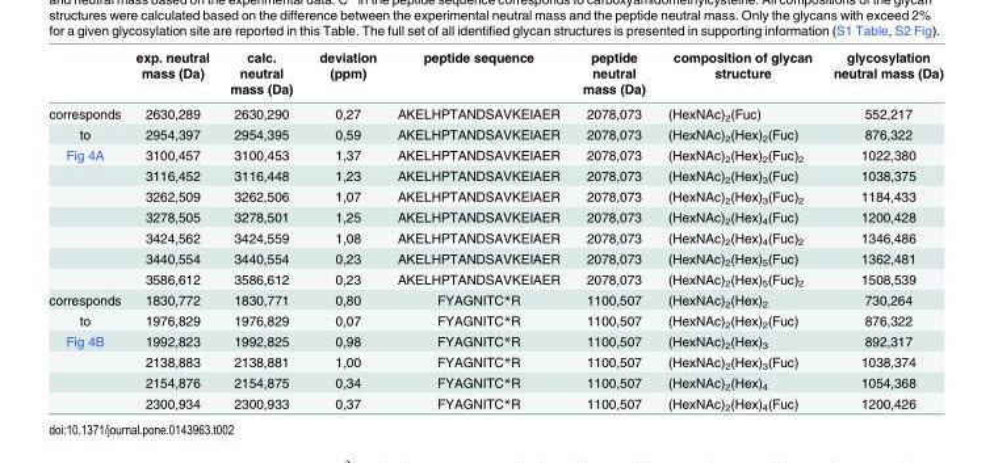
<table><thead><tr><td></td><td>exp. neutral mass (Da)</td><td>calc. neutral mass (Da)</td><td>deviation (ppm)</td><td>peptide sequence</td><td>peptide neutral mass (Da)</td><td>composition of glycan structure</td><td>glycosylation neutral mass (Da)</td></tr></thead><tbody><tr><td>corresponds</td><td>2630,289</td><td>2630,290</td><td>0,27</td><td>AKELHPTANDSAVKEIAER</td><td>2078,073</td><td>(HexNAc)<sub>2</sub>(Fuc)</td><td>552,217</td></tr><tr><td>to</td><td>2954,397</td><td>2954,395</td><td>0,59</td><td>AKELHPTANDSAVKEIAER</td><td>2078,073</td><td>(HexNAc)<sub>2</sub>(Hex)<sub>2</sub>(Fuc)</td><td>876,322</td></tr><tr><td rowspan="7">Fig 4A</td><td>3100,457</td><td>3100,453</td><td>1,37</td><td>AKELHPTANDSAVKEIAER</td><td>2078,073</td><td>(HexNAc)<sub>2</sub>(Hex)<sub>2</sub>(Fuc)<sub>2</sub></td><td>1022,380</td></tr><tr><td>3116,452</td><td>3116,448</td><td>1,23</td><td>AKELHPTANDSAVKEIAER</td><td>2078,073</td><td>(HexNAc)<sub>2</sub>(Hex)<sub>3</sub>(Fuc)</td><td>1038,375</td></tr><tr><td>3262,509</td><td>3262,506</td><td>1,07</td><td>AKELHPTANDSAVKEIAER</td><td>2078,073</td><td>(HexNAc)<sub>2</sub>(Hex)<sub>3</sub>(Fuc)<sub>2</sub></td><td>1184,433</td></tr><tr><td>3278,505</td><td>3278,501</td><td>1,25</td><td>AKELHPTANDSAVKEIAER</td><td>2078,073</td><td>(HexNAc)<sub>2</sub>(Hex)<sub>4</sub>(Fuc)</td><td>1200,428</td></tr><tr><td>3424,562</td><td>3424,559</td><td>1,08</td><td>AKELHPTANDSAVKEIAER</td><td>2078,073</td><td>(HexNAc)<sub>2</sub>(Hex)<sub>4</sub>(Fuc)<sub>2</sub></td><td>1346,486</td></tr><tr><td>3440,554</td><td>3440,554</td><td>0,23</td><td>AKELHPTANDSAVKEIAER</td><td>2078,073</td><td>(HexNAc)<sub>2</sub>(Hex)<sub>5</sub>(Fuc)</td><td>1362,481</td></tr><tr><td>3586,612</td><td>3586,612</td><td>0,23</td><td>AKELHPTANDSAVKEIAER</td><td>2078,073</td><td>(HexNAc)<sub>2</sub>(Hex)<sub>5</sub>(Fuc)<sub>2</sub></td><td>1508,539</td></tr><tr><td>corresponds</td><td>1830,772</td><td>1830,771</td><td>0,80</td><td>FYAGNITC*R</td><td>1100,507</td><td>(HexNAc)<sub>2</sub>(Hex)<sub>2</sub></td><td>730,264</td></tr><tr><td>to</td><td>1976,829</td><td>1976,829</td><td>0,07</td><td>FYAGNITC*R</td><td>1100,507</td><td>(HexNAc)<sub>2</sub>(Hex)<sub>2</sub>(Fuc)</td><td>876,322</td></tr><tr><td rowspan="4">Fig 4B</td><td>1992,823</td><td>1992,825</td><td>0,98</td><td>FYAGNITC*R</td><td>1100,507</td><td>(HexNAc)<sub>2</sub>(Hex)<sub>3</sub></td><td>892,317</td></tr><tr><td>2138,883</td><td>2138,881</td><td>1,00</td><td>FYAGNITC*R</td><td>1100,507</td><td>(HexNAc)<sub>2</sub>(Hex)<sub>3</sub>(Fuc)</td><td>1038,374</td></tr><tr><td>2154,876</td><td>2154,875</td><td>0,34</td><td>FYAGNITC*R</td><td>1100,507</td><td>(HexNAc)<sub>2</sub>(Hex)<sub>4</sub></td><td>1054,368</td></tr><tr><td>2300,934</td><td>2300,933</td><td>0,37</td><td>FYAGNITC*R</td><td>1100,507</td><td>(HexNAc)<sub>2</sub>(Hex)<sub>4</sub>(Fuc)</td><td>1200,426</td></tr></tbody></table>